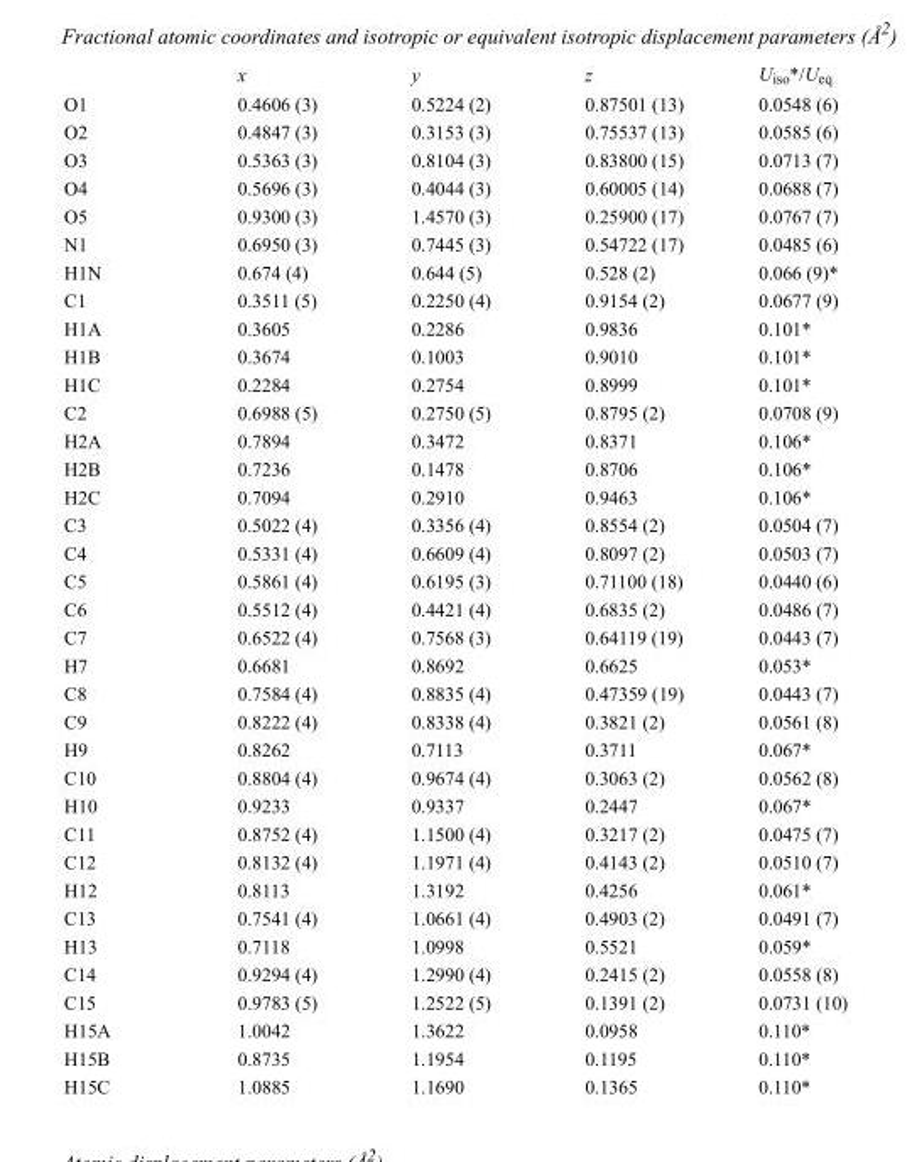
<table><thead><tr><td></td><td>x</td><td>y</td><td>z</td><td>U<sub>iso</sub>*/U<sub>eq</sub></td></tr></thead><tbody><tr><td>O1</td><td>0.4606 (3)</td><td>0.5224 (2)</td><td>0.87501 (13)</td><td>0.0548 (6)</td></tr><tr><td>O2</td><td>0.4847 (3)</td><td>0.3153 (3)</td><td>0.75537 (13)</td><td>0.0585 (6)</td></tr><tr><td>O3</td><td>0.5363 (3)</td><td>0.8104 (3)</td><td>0.83800 (15)</td><td>0.0713 (7)</td></tr><tr><td>O4</td><td>0.5696 (3)</td><td>0.4044 (3)</td><td>0.60005 (14)</td><td>0.0688 (7)</td></tr><tr><td>O5</td><td>0.9300 (3)</td><td>1.4570 (3)</td><td>0.25900 (17)</td><td>0.0767 (7)</td></tr><tr><td>N1</td><td>0.6950 (3)</td><td>0.7445 (3)</td><td>0.54722 (17)</td><td>0.0485 (6)</td></tr><tr><td>H1N</td><td>0.674 (4)</td><td>0.644 (5)</td><td>0.528 (2)</td><td>0.066 (9)*</td></tr><tr><td>C1</td><td>0.3511 (5)</td><td>0.2250 (4)</td><td>0.9154 (2)</td><td>0.0677 (9)</td></tr><tr><td>H1A</td><td>0.3605</td><td>0.2286</td><td>0.9836</td><td>0.101*</td></tr><tr><td>H1B</td><td>0.3674</td><td>0.1003</td><td>0.9010</td><td>0.101*</td></tr><tr><td>H1C</td><td>0.2284</td><td>0.2754</td><td>0.8999</td><td>0.101*</td></tr><tr><td>C2</td><td>0.6988 (5)</td><td>0.2750 (5)</td><td>0.8795 (2)</td><td>0.0708 (9)</td></tr><tr><td>H2A</td><td>0.7894</td><td>0.3472</td><td>0.8371</td><td>0.106*</td></tr><tr><td>H2B</td><td>0.7236</td><td>0.1478</td><td>0.8706</td><td>0.106*</td></tr><tr><td>H2C</td><td>0.7094</td><td>0.2910</td><td>0.9463</td><td>0.106*</td></tr><tr><td>C3</td><td>0.5022 (4)</td><td>0.3356 (4)</td><td>0.8554 (2)</td><td>0.0504 (7)</td></tr><tr><td>C4</td><td>0.5331 (4)</td><td>0.6609 (4)</td><td>0.8097 (2)</td><td>0.0503 (7)</td></tr><tr><td>C5</td><td>0.5861 (4)</td><td>0.6195 (3)</td><td>0.71100 (18)</td><td>0.0440 (6)</td></tr><tr><td>C6</td><td>0.5512 (4)</td><td>0.4421 (4)</td><td>0.6835 (2)</td><td>0.0486 (7)</td></tr><tr><td>C7</td><td>0.6522 (4)</td><td>0.7568 (3)</td><td>0.64119 (19)</td><td>0.0443 (7)</td></tr><tr><td>H7</td><td>0.6681</td><td>0.8692</td><td>0.6625</td><td>0.053*</td></tr><tr><td>C8</td><td>0.7584 (4)</td><td>0.8835 (4)</td><td>0.47359 (19)</td><td>0.0443 (7)</td></tr><tr><td>C9</td><td>0.8222 (4)</td><td>0.8338 (4)</td><td>0.3821 (2)</td><td>0.0561 (8)</td></tr><tr><td>H9</td><td>0.8262</td><td>0.7113</td><td>0.3711</td><td>0.067*</td></tr><tr><td>C10</td><td>0.8804 (4)</td><td>0.9674 (4)</td><td>0.3063 (2)</td><td>0.0562 (8)</td></tr><tr><td>H10</td><td>0.9233</td><td>0.9337</td><td>0.2447</td><td>0.067*</td></tr><tr><td>C11</td><td>0.8752 (4)</td><td>1.1500 (4)</td><td>0.3217 (2)</td><td>0.0475 (7)</td></tr><tr><td>C12</td><td>0.8132 (4)</td><td>1.1971 (4)</td><td>0.4143 (2)</td><td>0.0510 (7)</td></tr><tr><td>H12</td><td>0.8113</td><td>1.3192</td><td>0.4256</td><td>0.061*</td></tr><tr><td>C13</td><td>0.7541 (4)</td><td>1.0661 (4)</td><td>0.4903 (2)</td><td>0.0491 (7)</td></tr><tr><td>H13</td><td>0.7118</td><td>1.0998</td><td>0.5521</td><td>0.059*</td></tr><tr><td>C14</td><td>0.9294 (4)</td><td>1.2990 (4)</td><td>0.2415 (2)</td><td>0.0558 (8)</td></tr><tr><td>C15</td><td>0.9783 (5)</td><td>1.2522 (5)</td><td>0.1391 (2)</td><td>0.0731 (10)</td></tr><tr><td>H15A</td><td>1.0042</td><td>1.3622</td><td>0.0958</td><td>0.110*</td></tr><tr><td>H15B</td><td>0.8735</td><td>1.1954</td><td>0.1195</td><td>0.110*</td></tr><tr><td>H15C</td><td>1.0885</td><td>1.1690</td><td>0.1365</td><td>0.110*</td></tr></tbody></table>